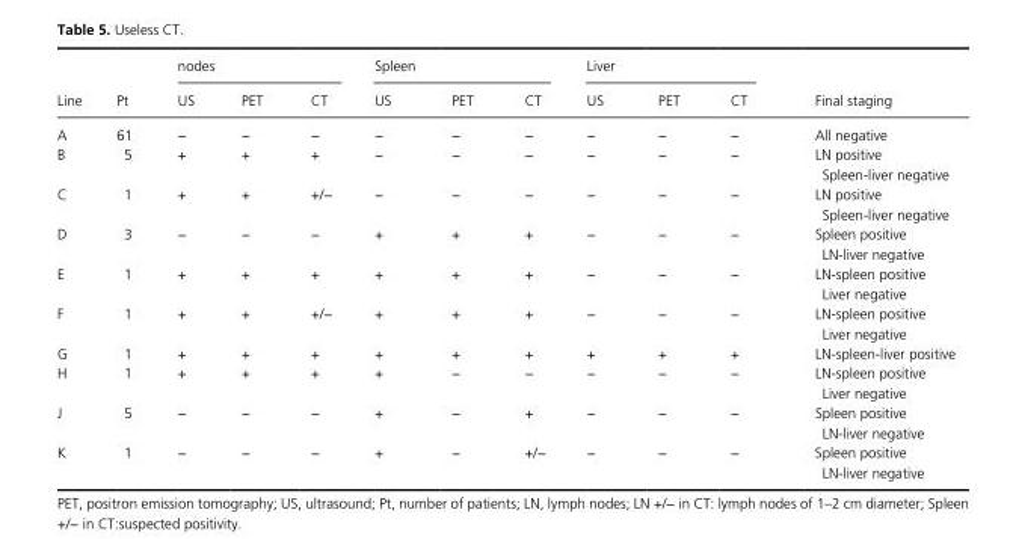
<table><thead><tr><td rowspan="2">Line</td><td rowspan="2">Pt</td><td colspan="3">nodes</td><td colspan="3">Spleen</td><td colspan="3">Liver</td><td rowspan="2">Final staging</td></tr><tr><td>US</td><td>PET</td><td>CT</td><td>US</td><td>PET</td><td>CT</td><td>US</td><td>PET</td><td>CT</td></tr></thead><tbody><tr><td>A</td><td>61</td><td>−</td><td>−</td><td>−</td><td>−</td><td>−</td><td>−</td><td>−</td><td>−</td><td>−</td><td>All negative</td></tr><tr><td>B</td><td>5</td><td>+</td><td>+</td><td>+</td><td>−</td><td>−</td><td>−</td><td>−</td><td>−</td><td>−</td><td>LN positive Spleen- liver negative</td></tr><tr><td>C</td><td>1</td><td>+</td><td>+</td><td>+/−</td><td>−</td><td>−</td><td>−</td><td>−</td><td>−</td><td>−</td><td>LN positive Spleen- liver negative</td></tr><tr><td>D</td><td>3</td><td>−</td><td>−</td><td>−</td><td>+</td><td>+</td><td>+</td><td>−</td><td>−</td><td>−</td><td>Spleen positive LN- liver negative</td></tr><tr><td>E</td><td>1</td><td>+</td><td>+</td><td>+</td><td>+</td><td>+</td><td>+</td><td>−</td><td>−</td><td>−</td><td>LN- spleen positive Liver negative</td></tr><tr><td>F</td><td>1</td><td>+</td><td>+</td><td>+/−</td><td>+</td><td>+</td><td>+</td><td>−</td><td>−</td><td>−</td><td>LN- spleen positive Liver negative</td></tr><tr><td>G</td><td>1</td><td>+</td><td>+</td><td>+</td><td>+</td><td>+</td><td>+</td><td>+</td><td>+</td><td>+</td><td>LN- spleen- liver positive</td></tr><tr><td>H</td><td>1</td><td>+</td><td>+</td><td>+</td><td>+</td><td>−</td><td>−</td><td>−</td><td>−</td><td>−</td><td>LN- spleen positive Liver negative</td></tr><tr><td>J</td><td>5</td><td>−</td><td>−</td><td>−</td><td>+</td><td>−</td><td>+</td><td>−</td><td>−</td><td>−</td><td>Spleen positive LN- liver negative</td></tr><tr><td>K</td><td>1</td><td>−</td><td>−</td><td>−</td><td>+</td><td>−</td><td>+/−</td><td>−</td><td>−</td><td>−</td><td>Spleen positive LN- liver negative</td></tr></tbody></table>